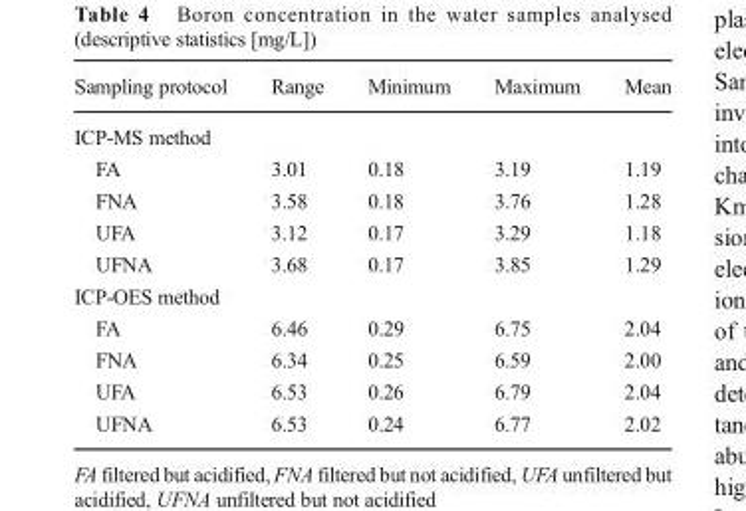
<table><thead><tr><td>Sampling protocol</td><td>Range</td><td>Minimum</td><td>Maximum</td><td>Mean</td></tr></thead><tbody><tr><td colspan="5">ICP-MS method</td></tr><tr><td>FA</td><td>3.01</td><td>0.18</td><td>3.19</td><td>1.19</td></tr><tr><td>FNA</td><td>3.58</td><td>0.18</td><td>3.76</td><td>1.28</td></tr><tr><td>UFA</td><td>3.12</td><td>0.17</td><td>3.29</td><td>1.18</td></tr><tr><td>UFNA</td><td>3.68</td><td>0.17</td><td>3.85</td><td>1.29</td></tr><tr><td colspan="5">ICP-OES method</td></tr><tr><td>FA</td><td>6.46</td><td>0.29</td><td>6.75</td><td>2.04</td></tr><tr><td>FNA</td><td>6.34</td><td>0.25</td><td>6.59</td><td>2.00</td></tr><tr><td>UFA</td><td>6.53</td><td>0.26</td><td>6.79</td><td>2.04</td></tr><tr><td>UFNA</td><td>6.53</td><td>0.24</td><td>6.77</td><td>2.02</td></tr></tbody></table>